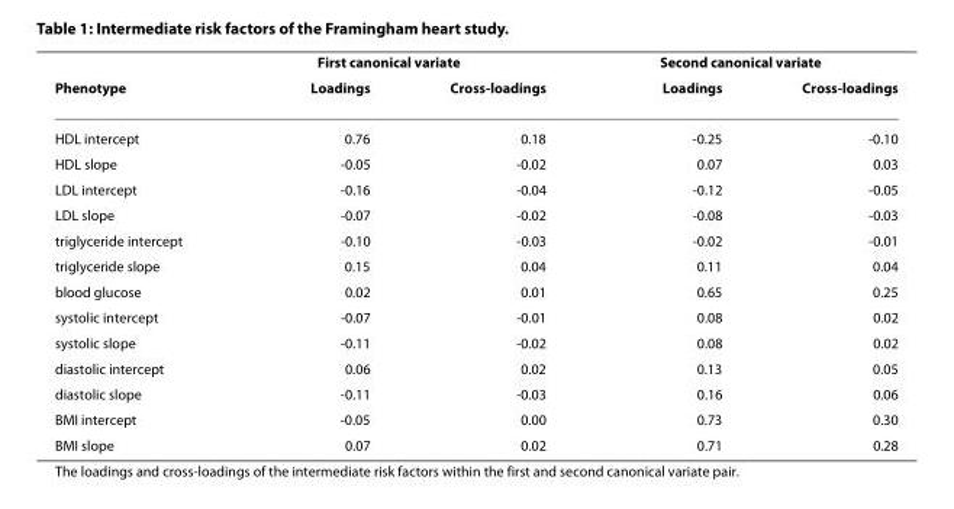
<table><thead><tr><td rowspan="2">Phenotype</td><td colspan="2">First canonical variate</td><td colspan="2">Second canonical variate</td></tr><tr><td>Loadings</td><td>Cross-loadings</td><td>Loadings</td><td>Cross-loadings</td></tr></thead><tbody><tr><td>HDL intercept</td><td>0.76</td><td>0.18</td><td>-0.25</td><td>-0.10</td></tr><tr><td>HDL slope</td><td>-0.05</td><td>-0.02</td><td>0.07</td><td>0.03</td></tr><tr><td>LDL intercept</td><td>-0.16</td><td>-0.04</td><td>-0.12</td><td>-0.05</td></tr><tr><td>LDL slope</td><td>-0.07</td><td>-0.02</td><td>-0.08</td><td>-0.03</td></tr><tr><td>triglyceride intercept</td><td>-0.10</td><td>-0.03</td><td>-0.02</td><td>-0.01</td></tr><tr><td>triglyceride slope</td><td>0.15</td><td>0.04</td><td>0.11</td><td>0.04</td></tr><tr><td>blood glucose</td><td>0.02</td><td>0.01</td><td>0.65</td><td>0.25</td></tr><tr><td>systolic intercept</td><td>-0.07</td><td>-0.01</td><td>0.08</td><td>0.02</td></tr><tr><td>systolic slope</td><td>-0.11</td><td>-0.02</td><td>0.08</td><td>0.02</td></tr><tr><td>diastolic intercept</td><td>0.06</td><td>0.02</td><td>0.13</td><td>0.05</td></tr><tr><td>diastolic slope</td><td>-0.11</td><td>-0.03</td><td>0.16</td><td>0.06</td></tr><tr><td>BMI intercept</td><td>-0.05</td><td>0.00</td><td>0.73</td><td>0.30</td></tr><tr><td>BMI slope</td><td>0.07</td><td>0.02</td><td>0.71</td><td>0.28</td></tr></tbody></table>